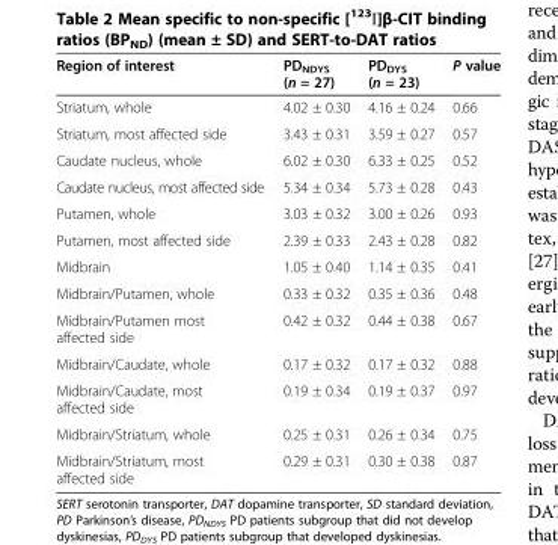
<table><thead><tr><td>Region of interest</td><td>PD<sub>NDYS</sub> (n = 27)</td><td>PD<sub>DYS</sub> (n = 23)</td><td>P value</td></tr></thead><tbody><tr><td>Striatum, whole</td><td>4.02 ± 0.30</td><td>4.16 ± 0.24</td><td>0.66</td></tr><tr><td>Striatum, most affected side</td><td>3.43 ± 0.31</td><td>3.59 ± 0.27</td><td>0.57</td></tr><tr><td>Caudate nucleus, whole</td><td>6.02 ± 0.30</td><td>6.33 ± 0.25</td><td>0.52</td></tr><tr><td>Caudate nucleus, most affected side</td><td>5.34 ± 0.34</td><td>5.73 ± 0.28</td><td>0.43</td></tr><tr><td>Putamen, whole</td><td>3.03 ± 0.32</td><td>3.00 ± 0.26</td><td>0.93</td></tr><tr><td>Putamen, most affected side</td><td>2.39 ± 0.33</td><td>2.43 ± 0.28</td><td>0.82</td></tr><tr><td>Midbrain</td><td>1.05 ± 0.40</td><td>1.14 ± 0.35</td><td>0.41</td></tr><tr><td>Midbrain/Putamen, whole</td><td>0.33 ± 0.32</td><td>0.35 ± 0.36</td><td>0.48</td></tr><tr><td>Midbrain/Putamen most affected side</td><td>0.42 ± 0.32</td><td>0.44 ± 0.38</td><td>0.67</td></tr><tr><td>Midbrain/Caudate, whole</td><td>0.17 ± 0.32</td><td>0.17 ± 0.32</td><td>0.88</td></tr><tr><td>Midbrain/Caudate, most affected side</td><td>0.19 ± 0.34</td><td>0.19 ± 0.37</td><td>0.97</td></tr><tr><td>Midbrain/Striatum, whole</td><td>0.25 ± 0.31</td><td>0.26 ± 0.34</td><td>0.75</td></tr><tr><td>Midbrain/Striatum, most affected side</td><td>0.29 ± 0.31</td><td>0.30 ± 0.38</td><td>0.87</td></tr></tbody></table>